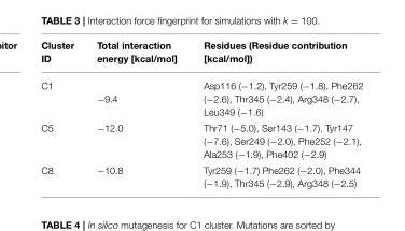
<table><thead><tr><td>Cluster ID</td><td>Total interaction energy [kcal/mol]</td><td>Residues (Residue contribution [kcal/mol])</td></tr></thead><tbody><tr><td>C1</td><td>−9.4</td><td>Asp116 (−1.2), Tyr259 (−1.8), Phe262 (−2.6), Thr345 (−2.4), Arg348 (−2.7), Leu349 (−1.6)</td></tr><tr><td>C5</td><td>−12.0</td><td>Thr71 (−5.0), Ser143 (−1.7), Tyr147 (−7.6), Ser249 (−2.0), Phe252 (−2.1), Ala253 (−1.9), Phe402 (−2.9)</td></tr><tr><td>C8</td><td>−10.8</td><td>Tyr259 (−1.7) Phe262 (−2.0), Phe344 (−1.9), Thr345 (−2.9), Arg348 (−2.5)</td></tr></tbody></table>